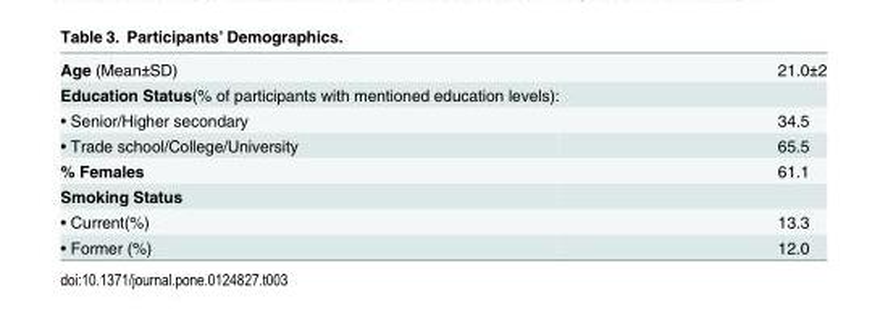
<table><tbody><tr><td>Age (Mean±SD)</td><td>21.0±2</td></tr><tr><td colspan="2">Education Status(% of participants with mentioned education levels):</td></tr><tr><td>• Senior/Higher secondary</td><td>34.5</td></tr><tr><td>• Trade school/College/University</td><td>65.5</td></tr><tr><td>% Females</td><td>61.1</td></tr><tr><td colspan="2">Smoking Status</td></tr><tr><td>• Current(%)</td><td>13.3</td></tr><tr><td>• Former (%)</td><td>12.0</td></tr></tbody></table>